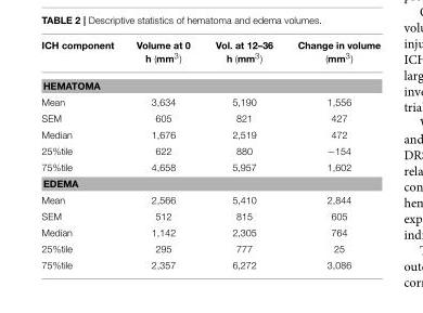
<table><thead><tr><td>ICH component</td><td>Volume at 0 h (mm<sup>3</sup>)</td><td>Vol. at 12–36 h (mm<sup>3</sup>)</td><td>Change in volume (mm<sup>3</sup>)</td></tr></thead><tbody><tr><td colspan="4">HEMATOMA</td></tr><tr><td>Mean</td><td>3,634</td><td>5,190</td><td>1,556</td></tr><tr><td>SEM</td><td>605</td><td>821</td><td>427</td></tr><tr><td>Median</td><td>1,676</td><td>2,519</td><td>472</td></tr><tr><td>25%tile</td><td>622</td><td>880</td><td>−154</td></tr><tr><td>75%tile</td><td>4,658</td><td>5,957</td><td>1,602</td></tr><tr><td colspan="4">EDEMA</td></tr><tr><td>Mean</td><td>2,566</td><td>5,410</td><td>2,844</td></tr><tr><td>SEM</td><td>512</td><td>815</td><td>605</td></tr><tr><td>Median</td><td>1,142</td><td>2,305</td><td>764</td></tr><tr><td>25%tile</td><td>295</td><td>777</td><td>25</td></tr><tr><td>75%tile</td><td>2,357</td><td>6,272</td><td>3,086</td></tr></tbody></table>